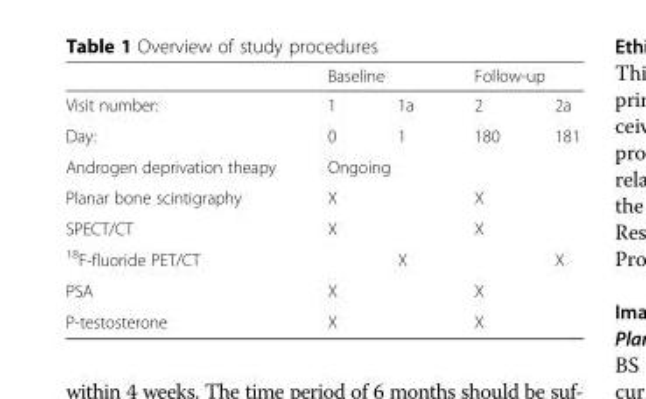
<table><thead><tr><td rowspan="2">Visit number:</td><td colspan="2">Baseline</td><td colspan="2">Follow-up</td></tr><tr><td>1</td><td>1a</td><td>2</td><td>2a</td></tr></thead><tbody><tr><td>Day:</td><td>0</td><td>1</td><td>180</td><td>181</td></tr><tr><td>Androgen deprivation theapy</td><td colspan="4">Ongoing</td></tr><tr><td>Planar bone scintigraphy</td><td>X</td><td></td><td>X</td><td></td></tr><tr><td>SPECT/CT</td><td>X</td><td></td><td>X</td><td></td></tr><tr><td><sup>18</sup>F-fluoride PET/CT</td><td></td><td>X</td><td></td><td>X</td></tr><tr><td>PSA</td><td colspan="2">X</td><td colspan="2">X</td></tr><tr><td>P-testosterone</td><td colspan="2">X</td><td colspan="2">X</td></tr></tbody></table>